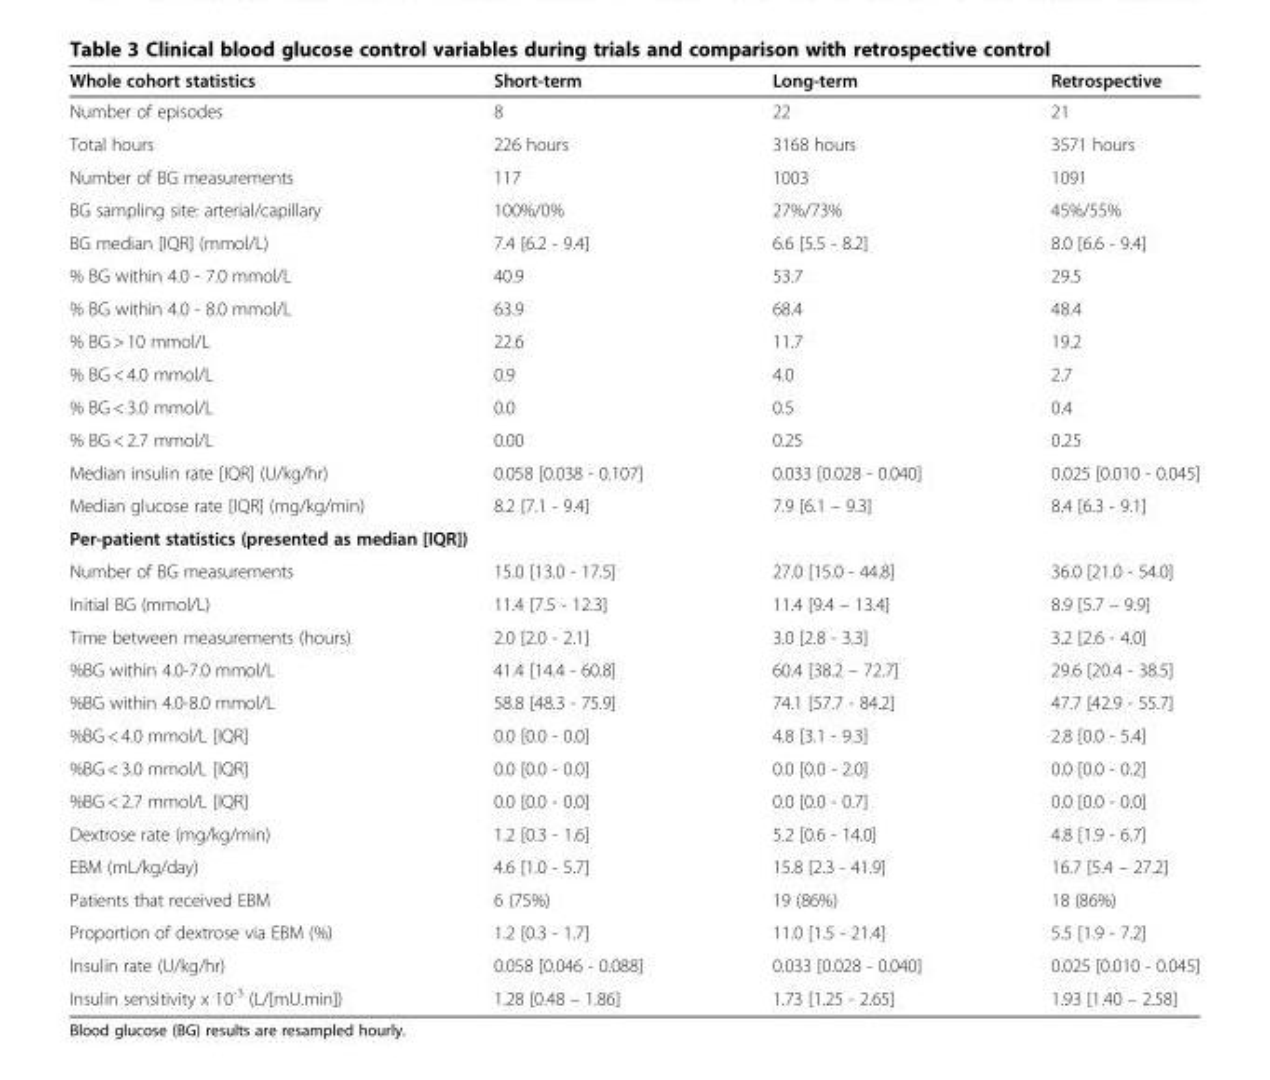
<table><thead><tr><td>Whole cohort statistics</td><td>Short-term</td><td>Long-term</td><td>Retrospective</td></tr></thead><tbody><tr><td>Number of episodes</td><td>8</td><td>22</td><td>21</td></tr><tr><td>Total hours</td><td>226 hours</td><td>3168 hours</td><td>3571 hours</td></tr><tr><td>Number of BG measurements</td><td>117</td><td>1003</td><td>1091</td></tr><tr><td>BG sampling site: arterial/capillary</td><td>100%/0%</td><td>27%/73%</td><td>45%/55%</td></tr><tr><td>BG median [IQR] (mmol/L)</td><td>7.4 [6.2 - 9.4]</td><td>6.6 [5.5 - 8.2]</td><td>8.0 [6.6 - 9.4]</td></tr><tr><td>% BG within 4.0 - 7.0 mmol/L</td><td>40.9</td><td>53.7</td><td>29.5</td></tr><tr><td>% BG within 4.0 - 8.0 mmol/L</td><td>63.9</td><td>68.4</td><td>48.4</td></tr><tr><td>% BG &gt; 10 mmol/L</td><td>22.6</td><td>11.7</td><td>19.2</td></tr><tr><td>% BG &lt; 4.0 mmol/L</td><td>0.9</td><td>4.0</td><td>2.7</td></tr><tr><td>% BG &lt; 3.0 mmol/L</td><td>0.0</td><td>0.5</td><td>0.4</td></tr><tr><td>% BG &lt; 2.7 mmol/L</td><td>0.00</td><td>0.25</td><td>0.25</td></tr><tr><td>Median insulin rate [IQR] (U/kg/hr)</td><td>0.058 [0.038 - 0.107]</td><td>0.033 [0.028 - 0.040]</td><td>0.025 [0.010 - 0.045]</td></tr><tr><td>Median glucose rate [IQR] (mg/kg/min)</td><td>8.2 [7.1 - 9.4]</td><td>7.9 [6.1 – 9.3]</td><td>8.4 [6.3 - 9.1]</td></tr><tr><td colspan="4">Per-patient statistics (presented as median [IQR])</td></tr><tr><td>Number of BG measurements</td><td>15.0 [13.0 - 17.5]</td><td>27.0 [15.0 - 44.8]</td><td>36.0 [21.0 - 54.0]</td></tr><tr><td>Initial BG (mmol/L)</td><td>11.4 [7.5 - 12.3]</td><td>11.4 [9.4 – 13.4]</td><td>8.9 [5.7 – 9.9]</td></tr><tr><td>Time between measurements (hours)</td><td>2.0 [2.0 - 2.1]</td><td>3.0 [2.8 - 3.3]</td><td>3.2 [2.6 - 4.0]</td></tr><tr><td>%BG within 4.0-7.0 mmol/L</td><td>41.4 [14.4 - 60.8]</td><td>60.4 [38.2 – 72.7]</td><td>29.6 [20.4 - 38.5]</td></tr><tr><td>%BG within 4.0-8.0 mmol/L</td><td>58.8 [48.3 - 75.9]</td><td>74.1 [57.7 - 84.2]</td><td>47.7 [42.9 - 55.7]</td></tr><tr><td>%BG &lt; 4.0 mmol/L [IQR]</td><td>0.0 [0.0 - 0.0]</td><td>4.8 [3.1 - 9.3]</td><td>2.8 [0.0 - 5.4]</td></tr><tr><td>%BG &lt; 3.0 mmol/L [IQR]</td><td>0.0 [0.0 - 0.0]</td><td>0.0 [0.0 - 2.0]</td><td>0.0 [0.0 - 0.2]</td></tr><tr><td>%BG &lt; 2.7 mmol/L [IQR]</td><td>0.0 [0.0 - 0.0]</td><td>0.0 [0.0 - 0.7]</td><td>0.0 [0.0 - 0.0]</td></tr><tr><td>Dextrose rate (mg/kg/min)</td><td>1.2 [0.3 - 1.6]</td><td>5.2 [0.6 - 14.0]</td><td>4.8 [1.9 - 6.7]</td></tr><tr><td>EBM (mL/kg/day)</td><td>4.6 [1.0 - 5.7]</td><td>15.8 [2.3 - 41.9]</td><td>16.7 [5.4 – 27.2]</td></tr><tr><td>Patients that received EBM</td><td>6 (75%)</td><td>19 (86%)</td><td>18 (86%)</td></tr><tr><td>Proportion of dextrose via EBM (%)</td><td>1.2 [0.3 - 1.7]</td><td>11.0 [1.5 - 21.4]</td><td>5.5 [1.9 - 7.2]</td></tr><tr><td>Insulin rate (U/kg/hr)</td><td>0.058 [0.046 - 0.088]</td><td>0.033 [0.028 - 0.040]</td><td>0.025 [0.010 - 0.045]</td></tr><tr><td>Insulin sensitivity x 10<sup>-3</sup> (L/[mU.min])</td><td>1.28 [0.48 – 1.86]</td><td>1.73 [1.25 - 2.65]</td><td>1.93 [1.40 – 2.58]</td></tr></tbody></table>